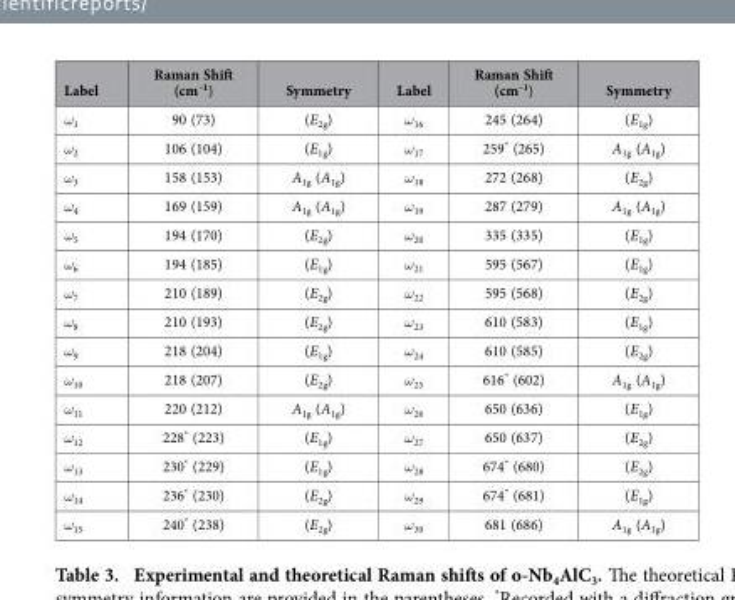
<table><thead><tr><td>Label</td><td>Raman Shift (cm<sup>–1</sup>)</td><td>Symmetry</td><td>Label</td><td>Raman Shift (cm<sup>–1</sup>)</td><td>Symmetry</td></tr></thead><tbody><tr><td>ω<sub>1</sub></td><td>90 (73)</td><td>(E<sub>2g</sub>)</td><td>ω<sub>16</sub></td><td>245 (264)</td><td>(E<sub>1g</sub>)</td></tr><tr><td>ω<sub>2</sub></td><td>106 (104)</td><td>(E<sub>1g</sub>)</td><td>ω<sub>17</sub></td><td>259* (265)</td><td>A<sub>1g</sub> (A<sub>1g</sub>)</td></tr><tr><td>ω<sub>3</sub></td><td>158 (153)</td><td>A<sub>1g</sub> (A<sub>1g</sub>)</td><td>ω<sub>18</sub></td><td>272 (268)</td><td>(E<sub>2g</sub>)</td></tr><tr><td>ω<sub>4</sub></td><td>169 (159)</td><td>A<sub>1g</sub> (A<sub>1g</sub>)</td><td>ω<sub>19</sub></td><td>287 (279)</td><td>A<sub>1g</sub> (A<sub>1g</sub>)</td></tr><tr><td>ω<sub>5</sub></td><td>194 (170)</td><td>(E<sub>2g</sub>)</td><td>ω<sub>20</sub></td><td>335 (335)</td><td>(E<sub>1g</sub>)</td></tr><tr><td>ω<sub>6</sub></td><td>194 (185)</td><td>(E<sub>1g</sub>)</td><td>ω<sub>21</sub></td><td>595 (567)</td><td>(E<sub>1g</sub>)</td></tr><tr><td>ω<sub>7</sub></td><td>210 (189)</td><td>(E<sub>2g</sub>)</td><td>ω<sub>22</sub></td><td>595 (568)</td><td>(E<sub>2g</sub>)</td></tr><tr><td>ω<sub>8</sub></td><td>210 (193)</td><td>(E<sub>2g</sub>)</td><td>ω<sub>23</sub></td><td>610 (583)</td><td>(E<sub>1g</sub>)</td></tr><tr><td>ω<sub>9</sub></td><td>218 (204)</td><td>(E<sub>1g</sub>)</td><td>ω<sub>24</sub></td><td>610 (585)</td><td>(E<sub>2g</sub>)</td></tr><tr><td>ω<sub>10</sub></td><td>218 (207)</td><td>(E<sub>2g</sub>)</td><td>ω<sub>25</sub></td><td>616* (602)</td><td>A<sub>1g</sub> (A<sub>1g</sub>)</td></tr><tr><td>ω<sub>11</sub></td><td>220 (212)</td><td>A<sub>1g</sub> (A<sub>1g</sub>)</td><td>ω<sub>26</sub></td><td>650 (636)</td><td>(E<sub>1g</sub>)</td></tr><tr><td>ω<sub>12</sub></td><td>228* (223)</td><td>(E<sub>1g</sub>)</td><td>ω<sub>27</sub></td><td>650 (637)</td><td>(E<sub>2g</sub>)</td></tr><tr><td>ω<sub>13</sub></td><td>230* (229)</td><td>(E<sub>1g</sub>)</td><td>ω<sub>28</sub></td><td>674* (680)</td><td>(E<sub>2g</sub>)</td></tr><tr><td>ω<sub>14</sub></td><td>236* (230)</td><td>(E<sub>2g</sub>)</td><td>ω<sub>29</sub></td><td>674* (681)</td><td>(E<sub>1g</sub>)</td></tr><tr><td>ω<sub>15</sub></td><td>240* (238)</td><td>(E<sub>2g</sub>)</td><td>ω<sub>30</sub></td><td>681 (686)</td><td>A<sub>1g</sub> (A<sub>1g</sub>)</td></tr></tbody></table>